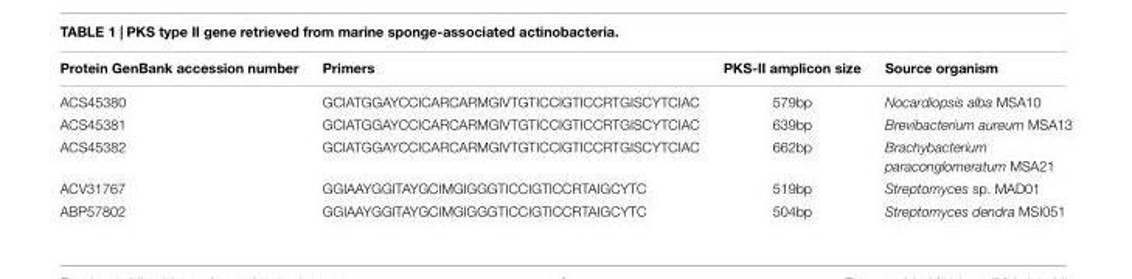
<table><thead><tr><td>Protein GenBank accession number</td><td>Primers</td><td>PKS-II amplicon size</td><td>Source organism</td></tr></thead><tbody><tr><td>ACS45380</td><td>GCIATGGAYCCICARCARMGIVTGTICCIGTICCRTGISCYTCIAC</td><td>579bp</td><td>Nocardiopsis alba MSA10</td></tr><tr><td>ACS45381</td><td>GCIATGGAYCCICARCARMGIVTGTICCIGTICCRTGISCYTCIAC</td><td>639bp</td><td>Brevibacterium aureum MSA13</td></tr><tr><td>ACS45382</td><td>GCIATGGAYCCICARCARMGIVTGTICCIGTICCRTGISCYTCIAC</td><td>662bp</td><td>Brachybacterium paraconglomeratum MSA21</td></tr><tr><td>ACV31767</td><td>GGIAAYGGITAYGCIMGIGGGTICCIGTICCRTAIGCYTC</td><td>519bp</td><td>Streptomyces sp. MAD01</td></tr><tr><td>ABP57802</td><td>GGIAAYGGITAYGCIMGIGGGTICCIGTICCRTAIGCYTC</td><td>504bp</td><td>Streptomyces dendra MSI051</td></tr></tbody></table>